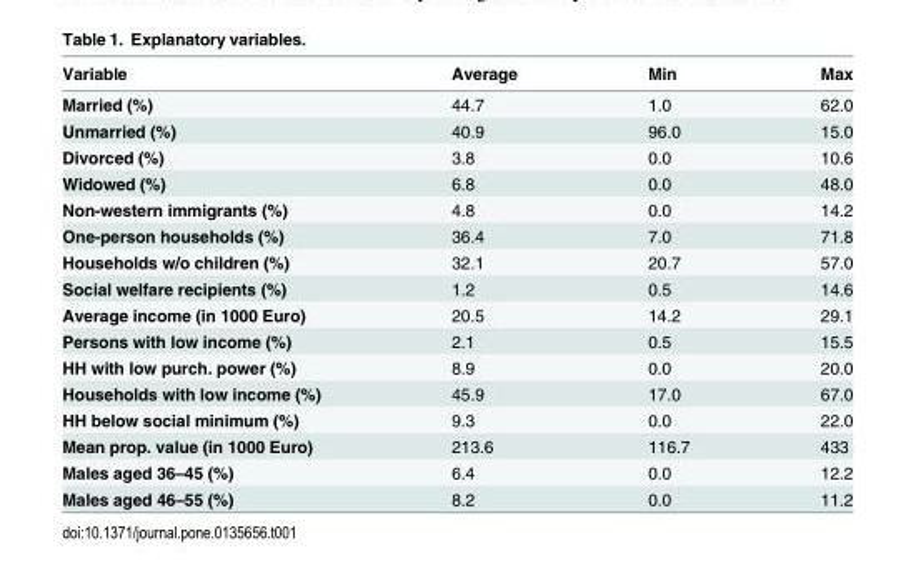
<table><thead><tr><td>Variable</td><td>Average</td><td>Min</td><td>Max</td></tr></thead><tbody><tr><td>Married (%)</td><td>44.7</td><td>1.0</td><td>62.0</td></tr><tr><td>Unmarried (%)</td><td>40.9</td><td>96.0</td><td>15.0</td></tr><tr><td>Divorced (%)</td><td>3.8</td><td>0.0</td><td>10.6</td></tr><tr><td>Widowed (%)</td><td>6.8</td><td>0.0</td><td>48.0</td></tr><tr><td>Non-western immigrants (%)</td><td>4.8</td><td>0.0</td><td>14.2</td></tr><tr><td>One-person households (%)</td><td>36.4</td><td>7.0</td><td>71.8</td></tr><tr><td>Households w/o children (%)</td><td>32.1</td><td>20.7</td><td>57.0</td></tr><tr><td>Social welfare recipients (%)</td><td>1.2</td><td>0.5</td><td>14.6</td></tr><tr><td>Average income (in 1000 Euro)</td><td>20.5</td><td>14.2</td><td>29.1</td></tr><tr><td>Persons with low income (%)</td><td>2.1</td><td>0.5</td><td>15.5</td></tr><tr><td>HH with low purch. power (%)</td><td>8.9</td><td>0.0</td><td>20.0</td></tr><tr><td>Households with low income (%)</td><td>45.9</td><td>17.0</td><td>67.0</td></tr><tr><td>HH below social minimum (%)</td><td>9.3</td><td>0.0</td><td>22.0</td></tr><tr><td>Mean prop. value (in 1000 Euro)</td><td>213.6</td><td>116.7</td><td>433</td></tr><tr><td>Males aged 36–45 (%)</td><td>6.4</td><td>0.0</td><td>12.2</td></tr><tr><td>Males aged 46–55 (%)</td><td>8.2</td><td>0.0</td><td>11.2</td></tr></tbody></table>